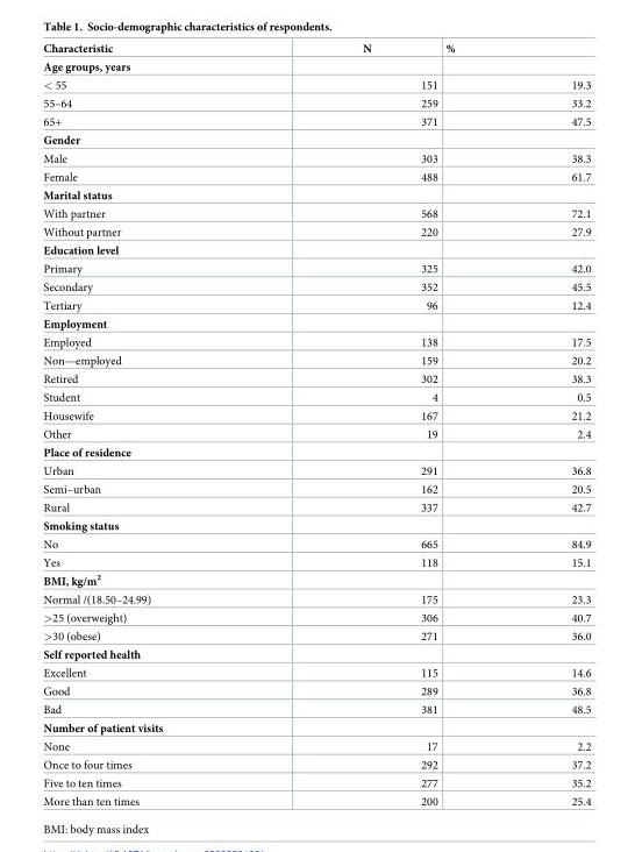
<table><thead><tr><td>Characteristic</td><td>N</td><td>%</td></tr></thead><tbody><tr><td colspan="3">Age groups, years</td></tr><tr><td>&lt; 55</td><td>151</td><td>19.3</td></tr><tr><td>55–64</td><td>259</td><td>33.2</td></tr><tr><td>65+</td><td>371</td><td>47.5</td></tr><tr><td colspan="3">Gender</td></tr><tr><td>Male</td><td>303</td><td>38.3</td></tr><tr><td>Female</td><td>488</td><td>61.7</td></tr><tr><td colspan="3">Marital status</td></tr><tr><td>With partner</td><td>568</td><td>72.1</td></tr><tr><td>Without partner</td><td>220</td><td>27.9</td></tr><tr><td colspan="3">Education level</td></tr><tr><td>Primary</td><td>325</td><td>42.0</td></tr><tr><td>Secondary</td><td>352</td><td>45.5</td></tr><tr><td>Tertiary</td><td>96</td><td>12.4</td></tr><tr><td colspan="3">Employment</td></tr><tr><td>Employed</td><td>138</td><td>17.5</td></tr><tr><td>Non—employed</td><td>159</td><td>20.2</td></tr><tr><td>Retired</td><td>302</td><td>38.3</td></tr><tr><td>Student</td><td>4</td><td>0.5</td></tr><tr><td>Housewife</td><td>167</td><td>21.2</td></tr><tr><td>Other</td><td>19</td><td>2.4</td></tr><tr><td colspan="3">Place of residence</td></tr><tr><td>Urban</td><td>291</td><td>36.8</td></tr><tr><td>Semi–urban</td><td>162</td><td>20.5</td></tr><tr><td>Rural</td><td>337</td><td>42.7</td></tr><tr><td colspan="3">Smoking status</td></tr><tr><td>No</td><td>665</td><td>84.9</td></tr><tr><td>Yes</td><td>118</td><td>15.1</td></tr><tr><td colspan="3">BMI, kg/m<sup>2</sup></td></tr><tr><td>Normal /(18.50–24.99)</td><td>175</td><td>23.3</td></tr><tr><td>&gt;25 (overweight)</td><td>306</td><td>40.7</td></tr><tr><td>&gt;30 (obese)</td><td>271</td><td>36.0</td></tr><tr><td colspan="3">Self reported health</td></tr><tr><td>Excellent</td><td>115</td><td>14.6</td></tr><tr><td>Good</td><td>289</td><td>36.8</td></tr><tr><td>Bad</td><td>381</td><td>48.5</td></tr><tr><td colspan="3">Number of patient visits</td></tr><tr><td>None</td><td>17</td><td>2.2</td></tr><tr><td>Once to four times</td><td>292</td><td>37.2</td></tr><tr><td>Five to ten times</td><td>277</td><td>35.2</td></tr><tr><td>More than ten times</td><td>200</td><td>25.4</td></tr></tbody></table>